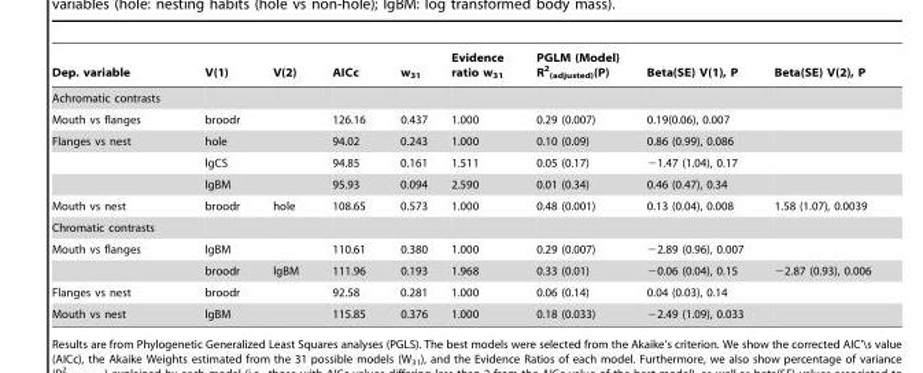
<table><thead><tr><td>Dep. variable</td><td>V(1)</td><td>V(2)</td><td>AICc</td><td>w<sub>31</sub></td><td>Evidence ratio w<sub>31</sub></td><td>PGLM (Model) R<sup>2</sup> <sub>(adjusted)</sub>(P)</td><td>Beta(SE) V(1), P</td><td>Beta(SE) V(2), P</td></tr></thead><tbody><tr><td colspan="9">Achromatic contrasts</td></tr><tr><td>Mouth vs flanges</td><td>broodr</td><td></td><td>126.16</td><td>0.437</td><td>1.000</td><td>0.29 (0.007)</td><td>0.19(0.06), 0.007</td><td></td></tr><tr><td rowspan="3">Flanges vs nest</td><td>hole</td><td></td><td>94.02</td><td>0.243</td><td>1.000</td><td>0.10 (0.09)</td><td>0.86 (0.99), 0.086</td><td></td></tr><tr><td>lgCS</td><td></td><td>94.85</td><td>0.161</td><td>1.511</td><td>0.05 (0.17)</td><td>−1.47 (1.04), 0.17</td><td></td></tr><tr><td>lgBM</td><td></td><td>95.93</td><td>0.094</td><td>2.590</td><td>0.01 (0.34)</td><td>0.46 (0.47), 0.34</td><td></td></tr><tr><td>Mouth vs nest</td><td>broodr</td><td>hole</td><td>108.65</td><td>0.573</td><td>1.000</td><td>0.48 (0.001)</td><td>0.13 (0.04), 0.008</td><td>1.58 (1.07), 0.0039</td></tr><tr><td colspan="9">Chromatic contrasts</td></tr><tr><td rowspan="2">Mouth vs flanges</td><td>lgBM</td><td></td><td>110.61</td><td>0.380</td><td>1.000</td><td>0.29 (0.007)</td><td>−2.89 (0.96), 0.007</td><td></td></tr><tr><td>broodr</td><td>lgBM</td><td>111.96</td><td>0.193</td><td>1.968</td><td>0.33 (0.01)</td><td>−0.06 (0.04), 0.15</td><td>−2.87 (0.93), 0.006</td></tr><tr><td>Flanges vs nest</td><td>broodr</td><td></td><td>92.58</td><td>0.281</td><td>1.000</td><td>0.06 (0.14)</td><td>0.04 (0.03), 0.14</td><td></td></tr><tr><td>Mouth vs nest</td><td>lgBM</td><td></td><td>115.85</td><td>0.376</td><td>1.000</td><td>0.18 (0.033)</td><td>−2.49 (1.09), 0.033</td><td></td></tr></tbody></table>